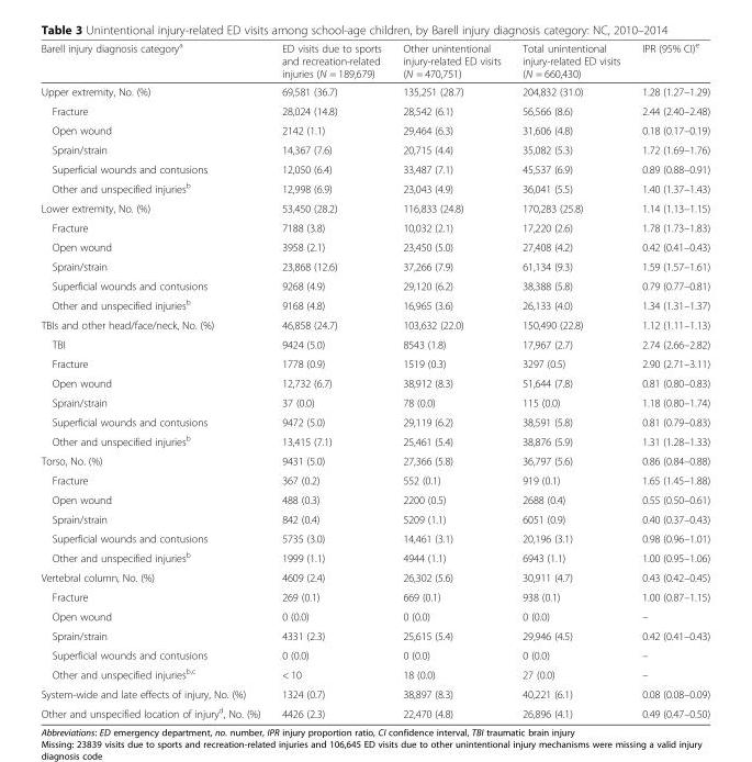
<table><thead><tr><td>Barell injury diagnosis category<sup>a</sup></td><td>ED visits due to sports and recreation-related injuries (N = 189,679)</td><td>Other unintentional injury-related ED visits (N = 470,751)</td><td>Total unintentional injury-related ED visits (N = 660,430)</td><td>IPR (95% CI)<sup>e</sup></td></tr></thead><tbody><tr><td>Upper extremity, No. (%)</td><td>69,581 (36.7)</td><td>135,251 (28.7)</td><td>204,832 (31.0)</td><td>1.28 (1.27–1.29)</td></tr><tr><td>Fracture</td><td>28,024 (14.8)</td><td>28,542 (6.1)</td><td>56,566 (8.6)</td><td>2.44 (2.40–2.48)</td></tr><tr><td>Open wound</td><td>2142 (1.1)</td><td>29,464 (6.3)</td><td>31,606 (4.8)</td><td>0.18 (0.17–0.19)</td></tr><tr><td>Sprain/strain</td><td>14,367 (7.6)</td><td>20,715 (4.4)</td><td>35,082 (5.3)</td><td>1.72 (1.69–1.76)</td></tr><tr><td>Superficial wounds and contusions</td><td>12,050 (6.4)</td><td>33,487 (7.1)</td><td>45,537 (6.9)</td><td>0.89 (0.88–0.91)</td></tr><tr><td>Other and unspecified injuries<sup>b</sup></td><td>12,998 (6.9)</td><td>23,043 (4.9)</td><td>36,041 (5.5)</td><td>1.40 (1.37–1.43)</td></tr><tr><td>Lower extremity, No. (%)</td><td>53,450 (28.2)</td><td>116,833 (24.8)</td><td>170,283 (25.8)</td><td>1.14 (1.13–1.15)</td></tr><tr><td>Fracture</td><td>7188 (3.8)</td><td>10,032 (2.1)</td><td>17,220 (2.6)</td><td>1.78 (1.73–1.83)</td></tr><tr><td>Open wound</td><td>3958 (2.1)</td><td>23,450 (5.0)</td><td>27,408 (4.2)</td><td>0.42 (0.41–0.43)</td></tr><tr><td>Sprain/strain</td><td>23,868 (12.6)</td><td>37,266 (7.9)</td><td>61,134 (9.3)</td><td>1.59 (1.57–1.61)</td></tr><tr><td>Superficial wounds and contusions</td><td>9268 (4.9)</td><td>29,120 (6.2)</td><td>38,388 (5.8)</td><td>0.79 (0.77–0.81)</td></tr><tr><td>Other and unspecified injuries<sup>b</sup></td><td>9168 (4.8)</td><td>16,965 (3.6)</td><td>26,133 (4.0)</td><td>1.34 (1.31–1.37)</td></tr><tr><td>TBIs and other head/face/neck, No. (%)</td><td>46,858 (24.7)</td><td>103,632 (22.0)</td><td>150,490 (22.8)</td><td>1.12 (1.11–1.13)</td></tr><tr><td>TBI</td><td>9424 (5.0)</td><td>8543 (1.8)</td><td>17,967 (2.7)</td><td>2.74 (2.66–2.82)</td></tr><tr><td>Fracture</td><td>1778 (0.9)</td><td>1519 (0.3)</td><td>3297 (0.5)</td><td>2.90 (2.71–3.11)</td></tr><tr><td>Open wound</td><td>12,732 (6.7)</td><td>38,912 (8.3)</td><td>51,644 (7.8)</td><td>0.81 (0.80–0.83)</td></tr><tr><td>Sprain/strain</td><td>37 (0.0)</td><td>78 (0.0)</td><td>115 (0.0)</td><td>1.18 (0.80–1.74)</td></tr><tr><td>Superficial wounds and contusions</td><td>9472 (5.0)</td><td>29,119 (6.2)</td><td>38,591 (5.8)</td><td>0.81 (0.79–0.83)</td></tr><tr><td>Other and unspecified injuries<sup>b</sup></td><td>13,415 (7.1)</td><td>25,461 (5.4)</td><td>38,876 (5.9)</td><td>1.31 (1.28–1.33)</td></tr><tr><td>Torso, No. (%)</td><td>9431 (5.0)</td><td>27,366 (5.8)</td><td>36,797 (5.6)</td><td>0.86 (0.84–0.88)</td></tr><tr><td>Fracture</td><td>367 (0.2)</td><td>552 (0.1)</td><td>919 (0.1)</td><td>1.65 (1.45–1.88)</td></tr><tr><td>Open wound</td><td>488 (0.3)</td><td>2200 (0.5)</td><td>2688 (0.4)</td><td>0.55 (0.50–0.61)</td></tr><tr><td>Sprain/strain</td><td>842 (0.4)</td><td>5209 (1.1)</td><td>6051 (0.9)</td><td>0.40 (0.37–0.43)</td></tr><tr><td>Superficial wounds and contusions</td><td>5735 (3.0)</td><td>14,461 (3.1)</td><td>20,196 (3.1)</td><td>0.98 (0.96–1.01)</td></tr><tr><td>Other and unspecified injuries<sup>b</sup></td><td>1999 (1.1)</td><td>4944 (1.1)</td><td>6943 (1.1)</td><td>1.00 (0.95–1.06)</td></tr><tr><td>Vertebral column, No. (%)</td><td>4609 (2.4)</td><td>26,302 (5.6)</td><td>30,911 (4.7)</td><td>0.43 (0.42–0.45)</td></tr><tr><td>Fracture</td><td>269 (0.1)</td><td>669 (0.1)</td><td>938 (0.1)</td><td>1.00 (0.87–1.15)</td></tr><tr><td>Open wound</td><td>0 (0.0)</td><td>0 (0.0)</td><td>0 (0.0)</td><td>–</td></tr><tr><td>Sprain/strain</td><td>4331 (2.3)</td><td>25,615 (5.4)</td><td>29,946 (4.5)</td><td>0.42 (0.41–0.43)</td></tr><tr><td>Superficial wounds and contusions</td><td>0 (0.0)</td><td>0 (0.0)</td><td>0 (0.0)</td><td>–</td></tr><tr><td>Other and unspecified injuries<sup>b,c</sup></td><td>&lt; 10</td><td>18 (0.0)</td><td>27 (0.0)</td><td>–</td></tr><tr><td>System-wide and late effects of injury, No. (%)</td><td>1324 (0.7)</td><td>38,897 (8.3)</td><td>40,221 (6.1)</td><td>0.08 (0.08–0.09)</td></tr><tr><td>Other and unspecified location of injury<sup>d</sup>, No. (%)</td><td>4426 (2.3)</td><td>22,470 (4.8)</td><td>26,896 (4.1)</td><td>0.49 (0.47–0.50)</td></tr></tbody></table>